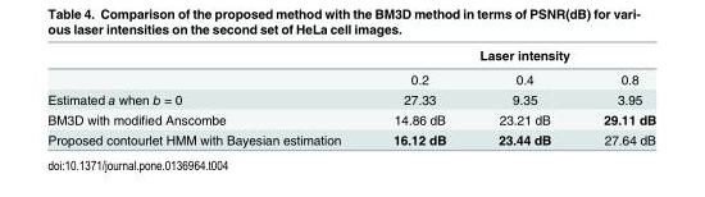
<table><thead><tr><td rowspan="2"></td><td colspan="3">Laser intensity</td></tr><tr><td>0.2</td><td>0.4</td><td>0.8</td></tr></thead><tbody><tr><td>Estimated a when b = 0</td><td>27.33</td><td>9.35</td><td>3.95</td></tr><tr><td>BM3D with modified Anscombe</td><td>14.86 dB</td><td>23.21 dB</td><td>29.11 dB</td></tr><tr><td>Proposed contourlet HMM with Bayesian estimation</td><td>16.12 dB</td><td>23.44 dB</td><td>27.64 dB</td></tr></tbody></table>